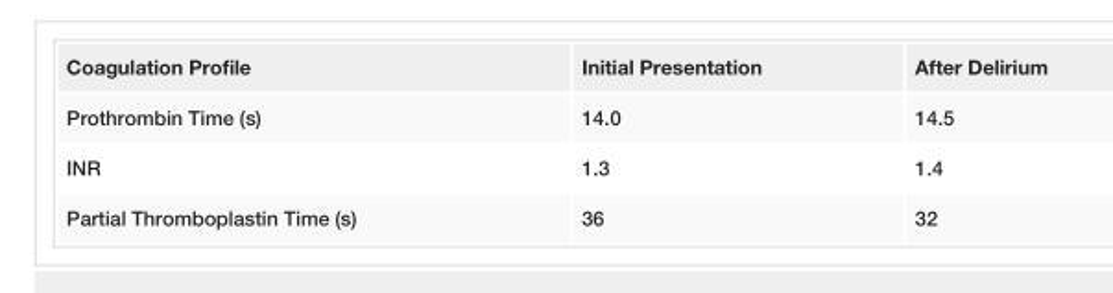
<table><tbody><tr><td>Coagulation Profile</td><td>Initial Presentation</td><td>After Delirium</td></tr><tr><td>Prothrombin Time (s)</td><td>14.0</td><td>14.5</td></tr><tr><td>INR</td><td>1.3</td><td>1.4</td></tr><tr><td>Partial Thromboplastin Time (s)</td><td>36</td><td>32</td></tr></tbody></table>